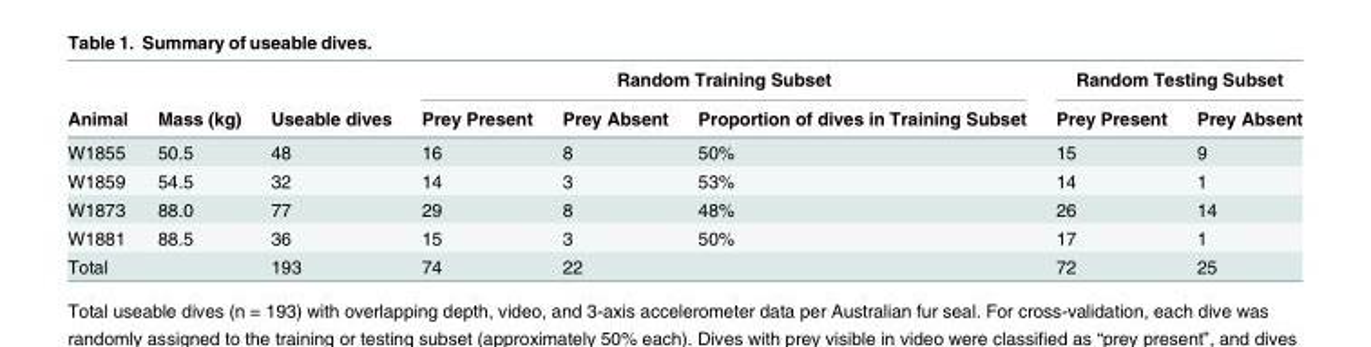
<table><thead><tr><td rowspan="2">Animal</td><td rowspan="2">Mass (kg)</td><td rowspan="2">Useable dives</td><td colspan="3">Random Training Subset</td><td colspan="2">Random Testing Subset</td></tr><tr><td>Prey Present</td><td>Prey Absent</td><td>Proportion of dives in Training Subset</td><td>Prey Present</td><td>Prey Absent</td></tr></thead><tbody><tr><td>W1855</td><td>50.5</td><td>48</td><td>16</td><td>8</td><td>50%</td><td>15</td><td>9</td></tr><tr><td>W1859</td><td>54.5</td><td>32</td><td>14</td><td>3</td><td>53%</td><td>14</td><td>1</td></tr><tr><td>W1873</td><td>88.0</td><td>77</td><td>29</td><td>8</td><td>48%</td><td>26</td><td>14</td></tr><tr><td>W1881</td><td>88.5</td><td>36</td><td>15</td><td>3</td><td>50%</td><td>17</td><td>1</td></tr><tr><td>Total</td><td></td><td>193</td><td>74</td><td>22</td><td></td><td>72</td><td>25</td></tr></tbody></table>